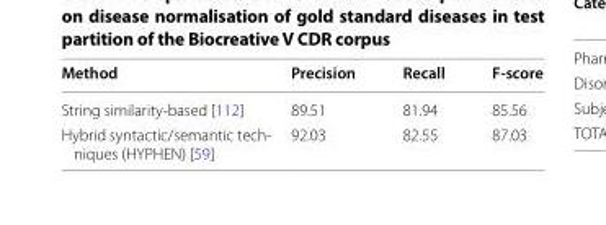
<table><thead><tr><td>Method</td><td>Precision</td><td>Recall</td><td>F‑score</td></tr></thead><tbody><tr><td>String similarity‑based [112]</td><td>89.51</td><td>81.94</td><td>85.56</td></tr><tr><td>Hybrid syntactic/semantic tech‑ niques (HYPHEN) [59]</td><td>92.03</td><td>82.55</td><td>87.03</td></tr></tbody></table>